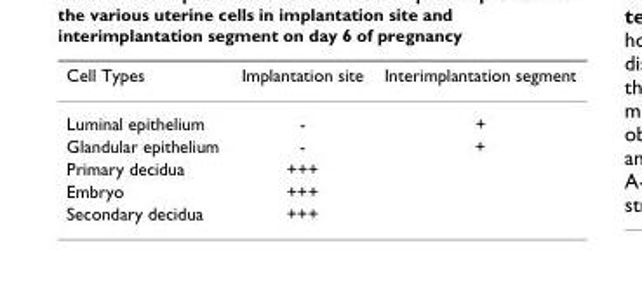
<table><thead><tr><td>Cell Types</td><td>Implantation site</td><td>Interimplantation segment</td></tr></thead><tbody><tr><td>Luminal epithelium</td><td>-</td><td>+</td></tr><tr><td>Glandular epithelium</td><td>-</td><td>+</td></tr><tr><td>Primary decidua</td><td>+++</td><td></td></tr><tr><td>Embryo</td><td>+++</td><td></td></tr><tr><td>Secondary decidua</td><td>+++</td><td></td></tr></tbody></table>